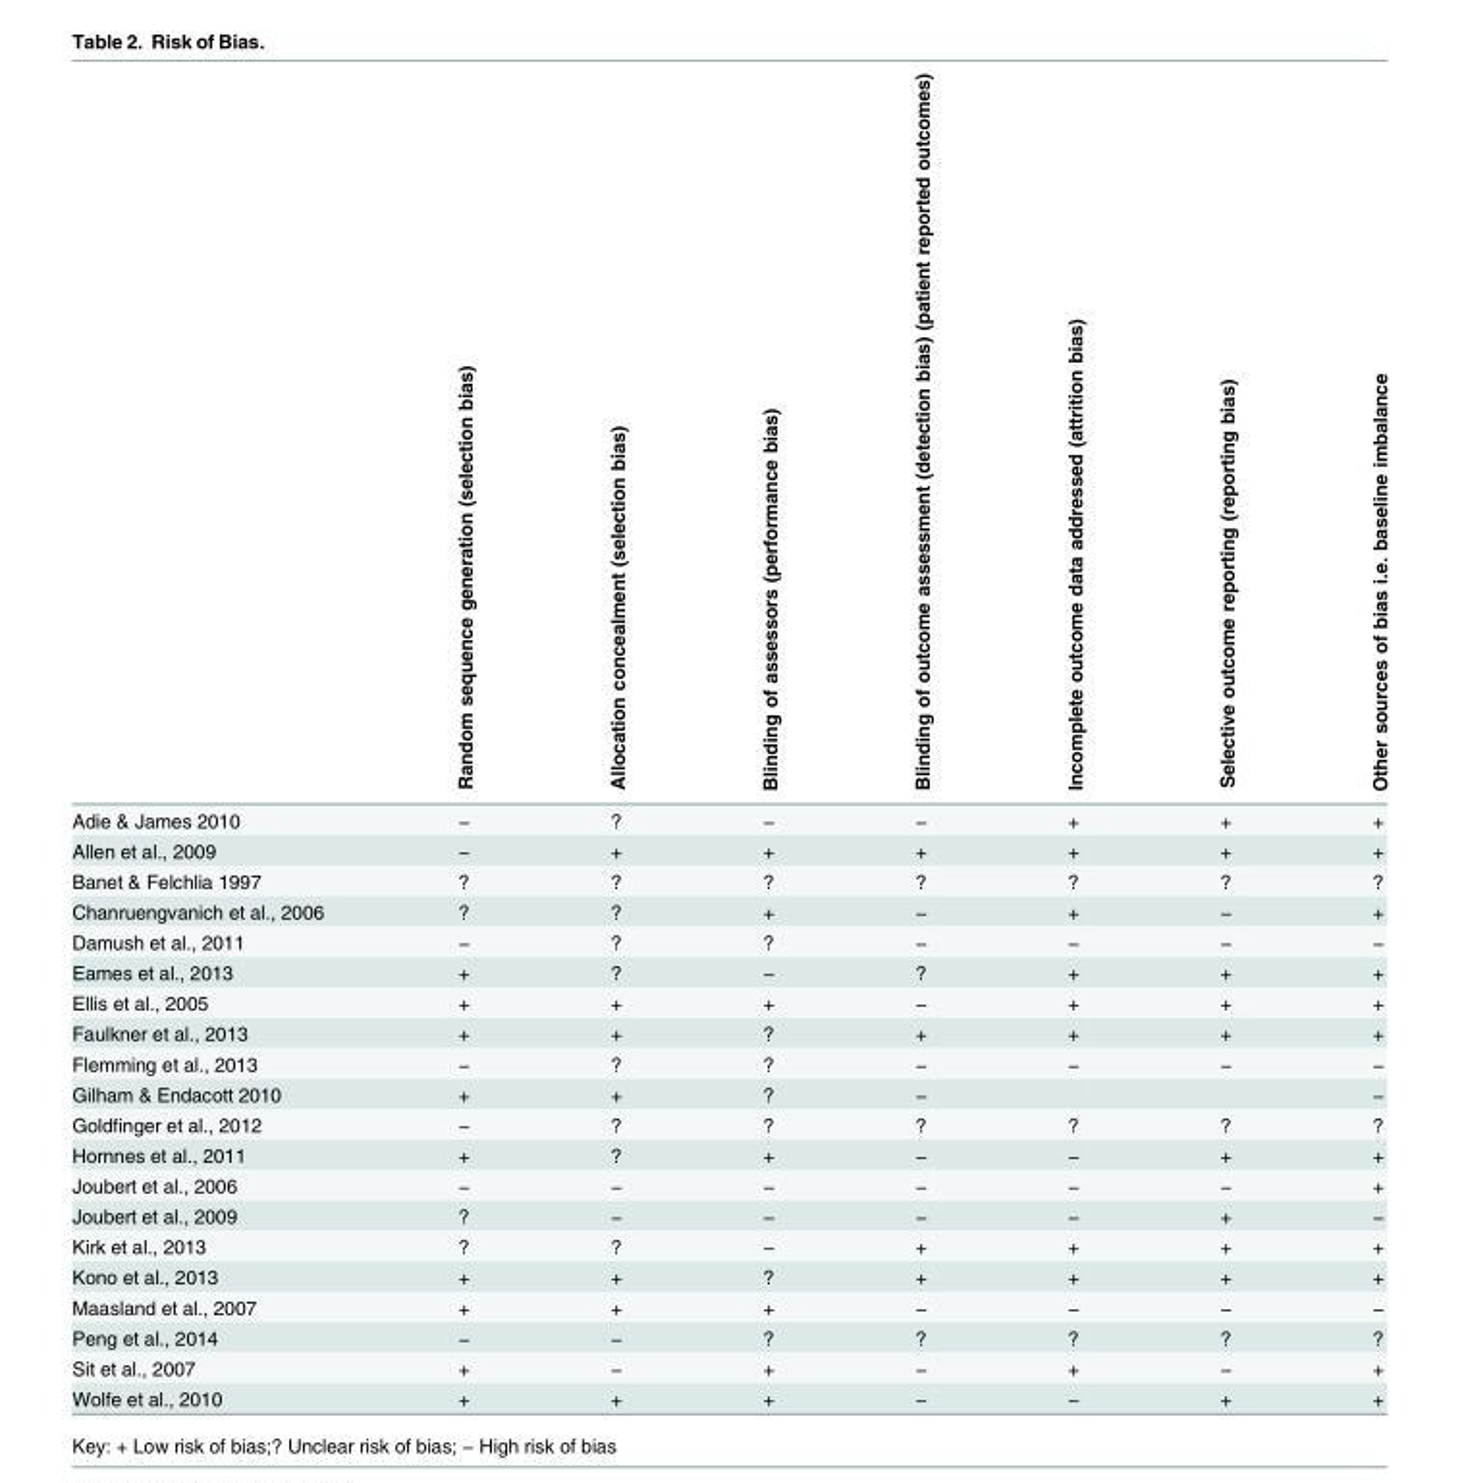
<table><thead><tr><td></td><td>Random sequence generation (selection bias)</td><td>Allocation concealment (selection bias)</td><td>Blinding of assessors (performance bias)</td><td>Blinding of outcome assessment (detection bias) (patient reported outcomes)</td><td>Incomplete outcome data addressed (attrition bias)</td><td>Selective outcome reporting (reporting bias)</td><td>Other sources of bias i.e. baseline imbalance</td></tr></thead><tbody><tr><td>Adie &amp; James 2010</td><td>−</td><td>?</td><td>−</td><td>−</td><td>+</td><td>+</td><td>+</td></tr><tr><td>Allen et al., 2009</td><td>−</td><td>+</td><td>+</td><td>+</td><td>+</td><td>+</td><td>+</td></tr><tr><td>Banet &amp; Felchlia 1997</td><td>?</td><td>?</td><td>?</td><td>?</td><td>?</td><td>?</td><td>?</td></tr><tr><td>Chanruengvanich et al., 2006</td><td>?</td><td>?</td><td>+</td><td>−</td><td>+</td><td>−</td><td>+</td></tr><tr><td>Damush et al., 2011</td><td>−</td><td>?</td><td>?</td><td>−</td><td>−</td><td>−</td><td>−</td></tr><tr><td>Eames et al., 2013</td><td>+</td><td>?</td><td>−</td><td>?</td><td>+</td><td>+</td><td>+</td></tr><tr><td>Ellis et al., 2005</td><td>+</td><td>+</td><td>+</td><td>−</td><td>+</td><td>+</td><td>+</td></tr><tr><td>Faulkner et al., 2013</td><td>+</td><td>+</td><td>?</td><td>+</td><td>+</td><td>+</td><td>+</td></tr><tr><td>Flemming et al., 2013</td><td>−</td><td>?</td><td>?</td><td>−</td><td>−</td><td>−</td><td>−</td></tr><tr><td>Gilham &amp; Endacott 2010</td><td>+</td><td>+</td><td>?</td><td>−</td><td></td><td></td><td>−</td></tr><tr><td>Goldfinger et al., 2012</td><td>−</td><td>?</td><td>?</td><td>?</td><td>?</td><td>?</td><td>?</td></tr><tr><td>Hornnes et al., 2011</td><td>+</td><td>?</td><td>+</td><td>−</td><td>−</td><td>+</td><td>+</td></tr><tr><td>Joubert et al., 2006</td><td>−</td><td>−</td><td>−</td><td>−</td><td>−</td><td>−</td><td>+</td></tr><tr><td>Joubert et al., 2009</td><td>?</td><td>−</td><td>−</td><td>−</td><td>−</td><td>+</td><td>−</td></tr><tr><td>Kirk et al., 2013</td><td>?</td><td>?</td><td>−</td><td>+</td><td>+</td><td>+</td><td>+</td></tr><tr><td>Kono et al., 2013</td><td>+</td><td>+</td><td>?</td><td>+</td><td>+</td><td>+</td><td>+</td></tr><tr><td>Maasland et al., 2007</td><td>+</td><td>+</td><td>+</td><td>−</td><td>−</td><td>−</td><td>−</td></tr><tr><td>Peng et al., 2014</td><td>−</td><td>−</td><td>?</td><td>?</td><td>?</td><td>?</td><td>?</td></tr><tr><td>Sit et al., 2007</td><td>+</td><td>−</td><td>+</td><td>−</td><td>+</td><td>−</td><td>+</td></tr><tr><td>Wolfe et al., 2010</td><td>+</td><td>+</td><td>+</td><td>−</td><td>−</td><td>+</td><td>+</td></tr></tbody></table>